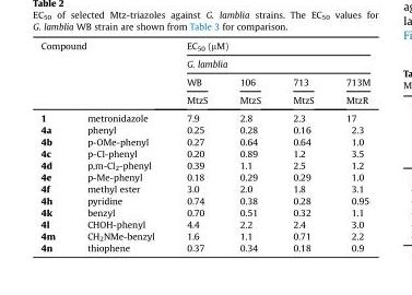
<table><thead><tr><td rowspan="4" colspan="2">Compound</td><td rowspan="2" colspan="4">EC<sub>50</sub> (μM) G. lamblia</td></tr><tr></tr><tr><td rowspan="3">WB MtzS 7.9</td><td rowspan="3">106 MtzS 2.8</td><td rowspan="3">713 MtzS 2.3</td><td rowspan="3">713M MtzR 17</td></tr><tr></tr><tr><td>1</td><td>metronidazole</td></tr></thead><tbody><tr><td>4a</td><td>phenyl</td><td>0.25</td><td>0.28</td><td>0.16</td><td>2.3</td></tr><tr><td>4b</td><td>p-OMe-phenyl</td><td>0.27</td><td>0.64</td><td>0.64</td><td>1.0</td></tr><tr><td>4c</td><td>p-Cl-phenyl</td><td>0.20</td><td>0.89</td><td>1.2</td><td>3.5</td></tr><tr><td>4d</td><td>p,m-Cl<sub>2</sub>-phenyl</td><td>0.39</td><td>1.1</td><td>2.5</td><td>1.2</td></tr><tr><td>4e</td><td>p-Me-phenyl</td><td>0.18</td><td>0.29</td><td>0.29</td><td>1.0</td></tr><tr><td>4f</td><td>methyl ester</td><td>3.0</td><td>2.0</td><td>1.8</td><td>3.1</td></tr><tr><td>4h</td><td>pyridine</td><td>0.74</td><td>0.38</td><td>0.28</td><td>0.95</td></tr><tr><td>4k</td><td>benzyl</td><td>0.70</td><td>0.51</td><td>0.32</td><td>1.1</td></tr><tr><td>4l</td><td>CHOH-phenyl</td><td>4.4</td><td>2.2</td><td>2.4</td><td>3.0</td></tr><tr><td>4m</td><td>CH<sub>2</sub>NMe-benzyl</td><td>1.6</td><td>1.1</td><td>0.71</td><td>2.2</td></tr><tr><td>4n</td><td>thiophene</td><td>0.37</td><td>0.34</td><td>0.18</td><td>0.9</td></tr></tbody></table>